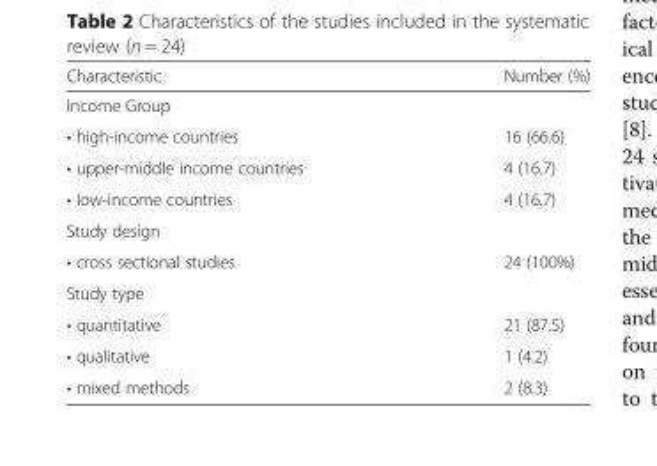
<table><thead><tr><td>Characteristic</td><td>Number (%)</td></tr></thead><tbody><tr><td colspan="2">Income Group</td></tr><tr><td>• high-income countries</td><td>16 (66.6)</td></tr><tr><td>• upper-middle income countries</td><td>4 (16.7)</td></tr><tr><td>• low-income countries</td><td>4 (16.7)</td></tr><tr><td colspan="2">Study design</td></tr><tr><td>• cross sectional studies</td><td>24 (100%)</td></tr><tr><td colspan="2">Study type</td></tr><tr><td>• quantitative</td><td>21 (87.5)</td></tr><tr><td>• qualitative</td><td>1 (4.2)</td></tr><tr><td>• mixed methods</td><td>2 (8.3)</td></tr></tbody></table>